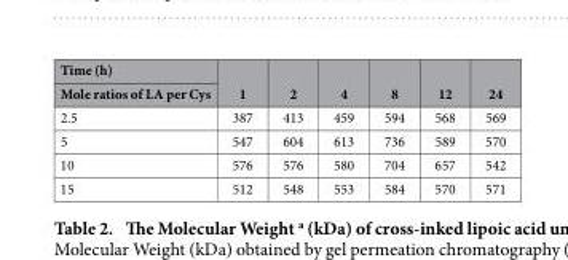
<table><thead><tr><td rowspan="2">Time (h) Mole ratios of LA per Cys</td><td rowspan="2">1</td><td rowspan="2">2</td><td rowspan="2">4</td><td rowspan="2">8</td><td rowspan="2">12</td><td rowspan="2">24</td></tr><tr></tr></thead><tbody><tr><td>2.5</td><td>387</td><td>413</td><td>459</td><td>594</td><td>568</td><td>569</td></tr><tr><td>5</td><td>547</td><td>604</td><td>613</td><td>736</td><td>589</td><td>570</td></tr><tr><td>10</td><td>576</td><td>576</td><td>580</td><td>704</td><td>657</td><td>542</td></tr><tr><td>15</td><td>512</td><td>548</td><td>553</td><td>584</td><td>570</td><td>571</td></tr></tbody></table>